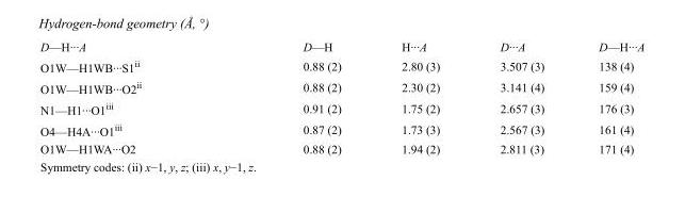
<table><tbody><tr><td>D—H···A</td><td>D—H</td><td>H···A</td><td>D···A</td><td>D—H···A</td></tr><tr><td>O1W—H1WB···S1<sup>ii</sup></td><td>0.88 (2)</td><td>2.80 (3)</td><td>3.507 (3)</td><td>138 (4)</td></tr><tr><td>O1W—H1WB···O2<sup>ii</sup></td><td>0.88 (2)</td><td>2.30 (2)</td><td>3.141 (4)</td><td>159 (4)</td></tr><tr><td>N1—H1···O1<sup>iii</sup></td><td>0.91 (2)</td><td>1.75 (2)</td><td>2.657 (3)</td><td>176 (3)</td></tr><tr><td>O4—H4A···O1<sup>iii</sup></td><td>0.87 (2)</td><td>1.73 (3)</td><td>2.567 (3)</td><td>161 (4)</td></tr><tr><td>O1W—H1WA···O2</td><td>0.88 (2)</td><td>1.94 (2)</td><td>2.811 (3)</td><td>171 (4)</td></tr></tbody></table>